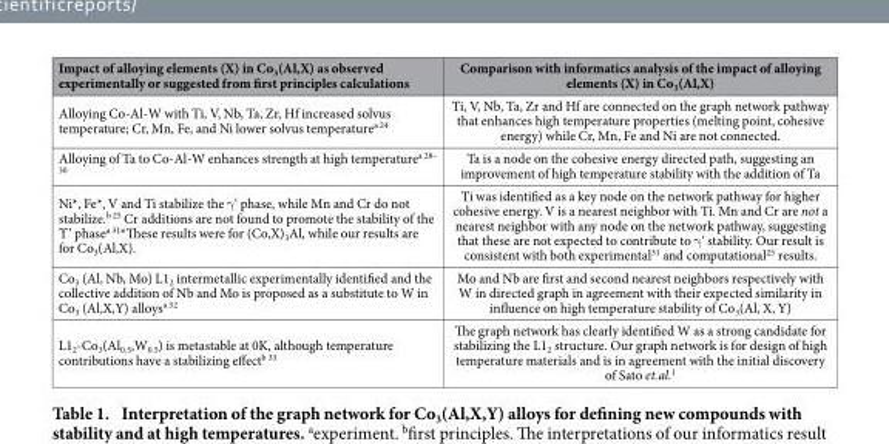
<table><thead><tr><td>Impact of alloying elements (X) in Co<sub>3</sub>(Al,X) as observed experimentally or suggested from first principles calculations</td><td>Comparison with informatics analysis of the impact of alloying elements (X) in Co<sub>3</sub>(Al,X)</td></tr></thead><tbody><tr><td>Alloying Co-Al-W with Ti, V, Nb, Ta, Zr, Hf increased solvus temperature; Cr, Mn, Fe, and Ni lower solvus temperature<sup>a 24</sup></td><td>Ti, V, Nb, Ta, Zr and Hf are connected on the graph network pathway that enhances high temperature properties (melting point, cohesive energy) while Cr, Mn, Fe and Ni are not connected.</td></tr><tr><td>Alloying of Ta to Co-Al-W enhances strength at high temperaturea 28– 30</td><td>Ta is a node on the cohesive energy directed path, suggesting an improvement of high temperature stability with the addition of Ta</td></tr><tr><td>Ni*, Fe*, V and Ti stabilize the γ ‘ phase, while Mn and Cr do not stabilize.<sup>b 25</sup> Cr additions are not found to promote the stability of the ϒ ’ phase<sup>a 31</sup>*These results were for (Co,X)<sub>3</sub>Al, while our results are for Co<sub>3</sub>(Al,X).</td><td>Ti was identified as a key node on the network pathway for higher cohesive energy. V is a nearest neighbor with Ti. Mn and Cr are not a nearest neighbor with any node on the network pathway, suggesting that these are not expected to contribute to γ ‘ stability. Our result is consistent with both experimental<sup>31</sup> and computational<sup>25</sup> results.</td></tr><tr><td>Co<sub>3</sub> (Al, Nb, Mo) L1<sub>2</sub> intermetallic experimentally identified and the collective addition of Nb and Mo is proposed as a substitute to W in Co<sub>3</sub> (Al,X,Y) alloys<sup>a 32</sup></td><td>Mo and Nb are first and second nearest neighbors respectively with W in directed graph in agreement with their expected similarity in influence on high temperature stability of Co<sub>3</sub>(Al, X, Y)</td></tr><tr><td>L1<sub>2</sub>-Co<sub>3</sub>(Al<sub>0.5</sub>,W<sub>0.5</sub>) is metastable at 0K, although temperature contributions have a stabilizing effect<sup>b 33</sup></td><td>The graph network has clearly identified W as a strong candidate for stabilizing the L1<sub>2</sub> structure. Our graph network is for design of high temperature materials and is in agreement with the initial discovery of Sato et.al.<sup>1</sup></td></tr></tbody></table>